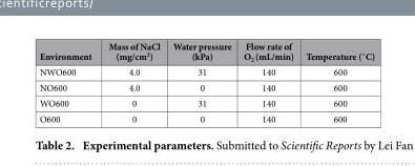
<table><thead><tr><td>Environment</td><td>Mass of NaCl (mg/cm<sup>2</sup>)</td><td>Water pressure (kPa)</td><td>Flow rate of O<sub>2</sub> <sup>(mL/min)</sup></td><td><sup>Temperature (˚C)</sup></td></tr></thead><tbody><tr><td>NWO600</td><td>4.0</td><td>31</td><td>140</td><td>600</td></tr><tr><td>NO600</td><td>4.0</td><td>0</td><td>140</td><td>600</td></tr><tr><td>WO600</td><td>0</td><td>31</td><td>140</td><td>600</td></tr><tr><td>O600</td><td>0</td><td>0</td><td>140</td><td>600</td></tr></tbody></table>